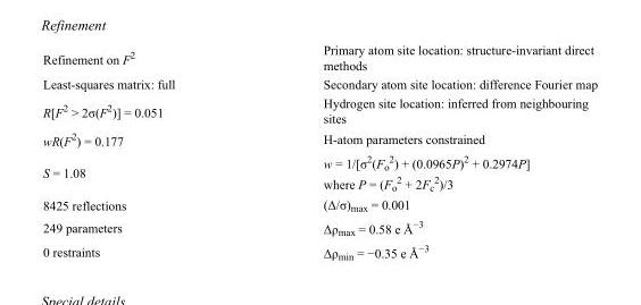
<table><tbody><tr><td>Refinement on F<sup>2</sup></td><td>Primary atom site location: structure-invariant direct methods</td></tr><tr><td>Least-squares matrix: full</td><td>Secondary atom site location: difference Fourier map</td></tr><tr><td>R[F<sup>2</sup> &gt; 2σ(F<sup>2</sup>)] = 0.051</td><td>Hydrogen site location: inferred from neighbouring sites</td></tr><tr><td>wR(F<sup>2</sup>) = 0.177</td><td>H-atom parameters constrained</td></tr><tr><td>S = 1.08</td><td>w = 1/[σ<sup>2</sup>(F<sub>o</sub> <sup>2</sup>) + (0.0965P)<sup>2</sup> + 0.2974P] where P = (F<sub>o</sub> <sup>2</sup> + 2F<sub>c</sub> <sup>2</sup>)/3</td></tr><tr><td>8425 reflections</td><td>(Δ/σ)<sub>max</sub> = 0.001</td></tr><tr><td>249 parameters</td><td>Δρ<sub>max</sub> = 0.58 e Å<sup>−3</sup></td></tr><tr><td>0 restraints</td><td>Δρ<sub>min</sub> = −0.35 e Å<sup>−3</sup></td></tr></tbody></table>